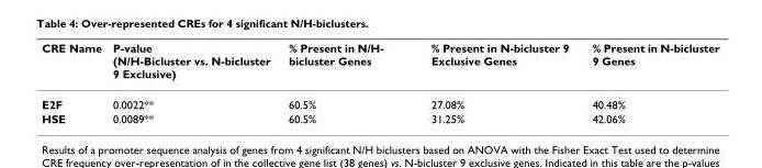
<table><thead><tr><td>CRE Name</td><td>P-value (N/H-Bicluster vs. N-bicluster 9 Exclusive)</td><td>% Present in N/H- bicluster Genes</td><td>% Present in N-bicluster 9 Exclusive Genes</td><td>% Present in N-bicluster 9 Genes</td></tr></thead><tbody><tr><td>E2F</td><td>0.0022**</td><td>60.5%</td><td>27.08%</td><td>40.48%</td></tr><tr><td>HSE</td><td>0.0089**</td><td>60.5%</td><td>31.25%</td><td>42.06%</td></tr></tbody></table>